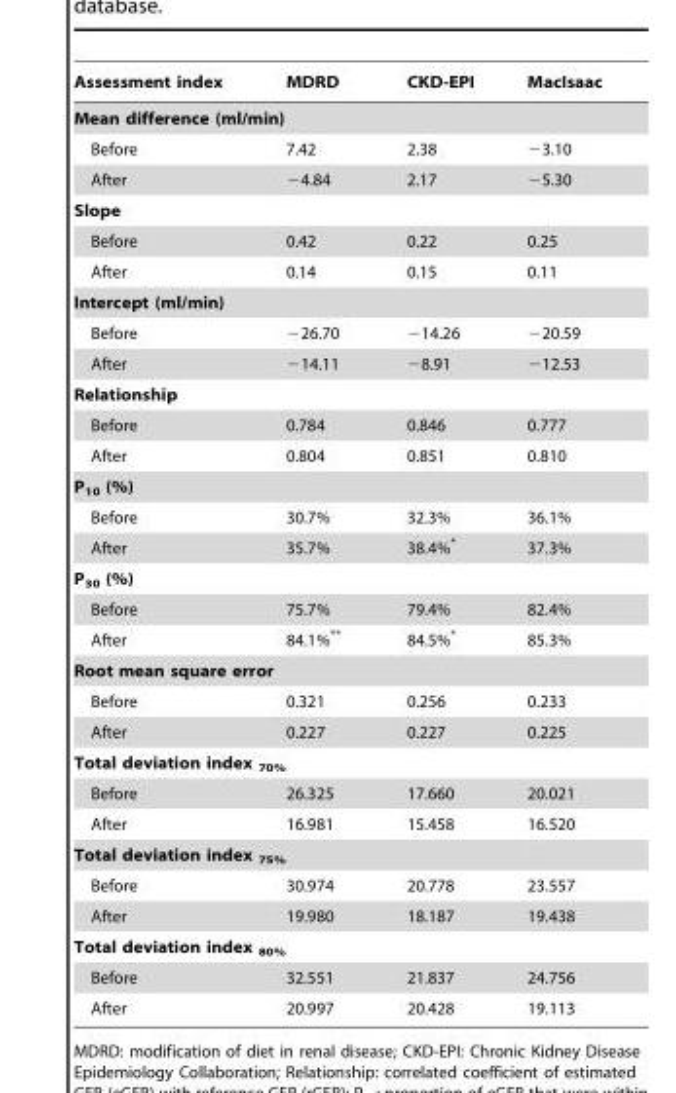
<table><thead><tr><td>Assessment index</td><td>MDRD</td><td>CKD-EPI</td><td>MacIsaac</td></tr></thead><tbody><tr><td colspan="4">Mean difference (ml/min)</td></tr><tr><td>Before</td><td>7.42</td><td>2.38</td><td>−3.10</td></tr><tr><td>After</td><td>−4.84</td><td>2.17</td><td>−5.30</td></tr><tr><td colspan="4">Slope</td></tr><tr><td>Before</td><td>0.42</td><td>0.22</td><td>0.25</td></tr><tr><td>After</td><td>0.14</td><td>0.15</td><td>0.11</td></tr><tr><td colspan="4">Intercept (ml/min)</td></tr><tr><td>Before</td><td>−26.70</td><td>−14.26</td><td>−20.59</td></tr><tr><td>After</td><td>−14.11</td><td>−8.91</td><td>−12.53</td></tr><tr><td colspan="4">Relationship</td></tr><tr><td>Before</td><td>0.784</td><td>0.846</td><td>0.777</td></tr><tr><td>After</td><td>0.804</td><td>0.851</td><td>0.810</td></tr><tr><td colspan="4">P<sub>10</sub> (%)</td></tr><tr><td>Before</td><td>30.7%</td><td>32.3%</td><td>36.1%</td></tr><tr><td>After</td><td>35.7%</td><td>38.4%*</td><td>37.3%</td></tr><tr><td colspan="4">P<sub>30</sub> (%)</td></tr><tr><td>Before</td><td>75.7%</td><td>79.4%</td><td>82.4%</td></tr><tr><td>After</td><td>84.1%**</td><td>84.5%*</td><td>85.3%</td></tr><tr><td colspan="4">Root mean square error</td></tr><tr><td>Before</td><td>0.321</td><td>0.256</td><td>0.233</td></tr><tr><td>After</td><td>0.227</td><td>0.227</td><td>0.225</td></tr><tr><td colspan="4">Total deviation index <sub>70%</sub></td></tr><tr><td>Before</td><td>26.325</td><td>17.660</td><td>20.021</td></tr><tr><td>After</td><td>16.981</td><td>15.458</td><td>16.520</td></tr><tr><td colspan="4">Total deviation index <sub>75%</sub></td></tr><tr><td>Before</td><td>30.974</td><td>20.778</td><td>23.557</td></tr><tr><td>After</td><td>19.980</td><td>18.187</td><td>19.438</td></tr><tr><td colspan="4">Total deviation index <sub>80%</sub></td></tr><tr><td>Before</td><td>32.551</td><td>21.837</td><td>24.756</td></tr><tr><td>After</td><td>20.997</td><td>20.428</td><td>19.113</td></tr></tbody></table>